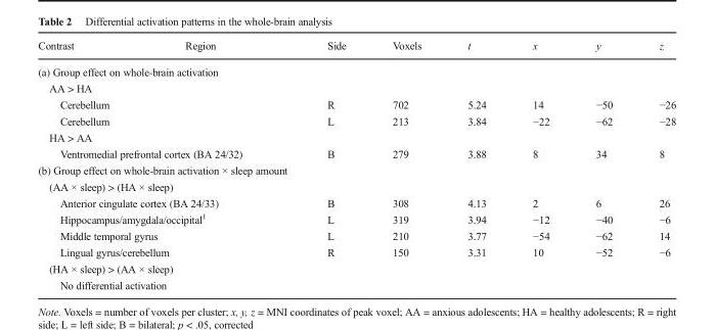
<table><thead><tr><td>Contrast</td><td>Region</td><td>Side</td><td>Voxels</td><td>t</td><td>x</td><td>y</td><td>z</td></tr></thead><tbody><tr><td colspan="8">(a) Group effect on whole-brain activation</td></tr><tr><td colspan="8">AA &gt; HA</td></tr><tr><td colspan="2">Cerebellum</td><td>R</td><td>702</td><td>5.24</td><td>14</td><td>−50</td><td>−26</td></tr><tr><td colspan="2">Cerebellum</td><td>L</td><td>213</td><td>3.84</td><td>−22</td><td>−62</td><td>−28</td></tr><tr><td colspan="8">HA &gt; AA</td></tr><tr><td colspan="2">Ventromedial prefrontal cortex (BA 24/32)</td><td>B</td><td>279</td><td>3.88</td><td>8</td><td>34</td><td>8</td></tr><tr><td colspan="8">(b) Group effect on whole-brain activation × sleep amount</td></tr><tr><td colspan="8">(AA × sleep) &gt; (HA × sleep)</td></tr><tr><td colspan="2">Anterior cingulate cortex (BA 24/33)</td><td>B</td><td>308</td><td>4.13</td><td>2</td><td>6</td><td>26</td></tr><tr><td colspan="2">Hippocampus/amygdala/occipital<sup>1</sup></td><td>L</td><td>319</td><td>3.94</td><td>−12</td><td>−40</td><td>−6</td></tr><tr><td colspan="2">Middle temporal gyrus</td><td>L</td><td>210</td><td>3.77</td><td>−54</td><td>−62</td><td>14</td></tr><tr><td colspan="2">Lingual gyrus/cerebellum</td><td>R</td><td>150</td><td>3.31</td><td>10</td><td>−52</td><td>−6</td></tr><tr><td colspan="8">(HA × sleep) &gt; (AA × sleep)</td></tr><tr><td colspan="2">No differential activation</td><td></td><td></td><td></td><td></td><td></td><td></td></tr></tbody></table>